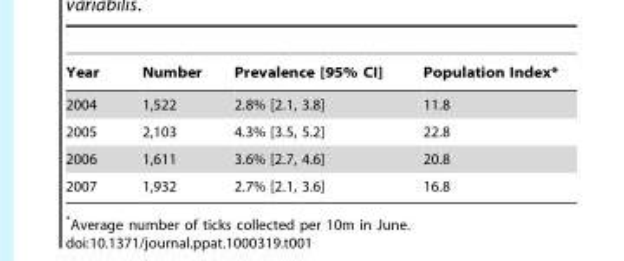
<table><thead><tr><td>Year</td><td>Number</td><td>Prevalence [95% CI]</td><td>Population Index*</td></tr></thead><tbody><tr><td>2004</td><td>1,522</td><td>2.8% [2.1, 3.8]</td><td>11.8</td></tr><tr><td>2005</td><td>2,103</td><td>4.3% [3.5, 5.2]</td><td>22.8</td></tr><tr><td>2006</td><td>1,611</td><td>3.6% [2.7, 4.6]</td><td>20.8</td></tr><tr><td>2007</td><td>1,932</td><td>2.7% [2.1, 3.6]</td><td>16.8</td></tr></tbody></table>